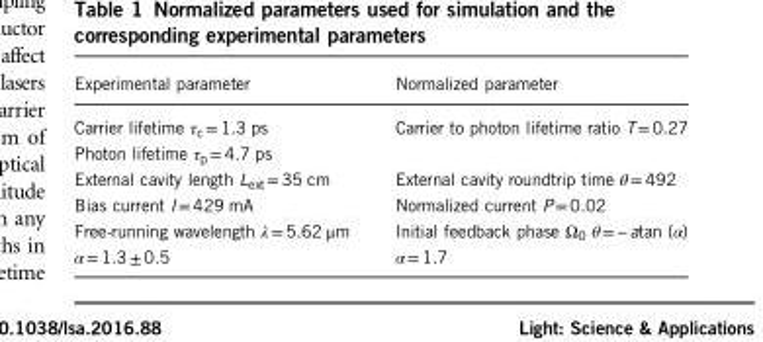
<table><thead><tr><td>Experimental parameter</td><td>Normalized parameter</td></tr></thead><tbody><tr><td>Carrier lifetime τ<sub>c</sub> = 1.3 ps</td><td>Carrier to photon lifetime ratio T = 0.27</td></tr><tr><td colspan="2">Photon lifetime τ<sub>p</sub> = 4.7 ps</td></tr><tr><td>External cavity length L<sub>ext</sub> = 35 cm</td><td>External cavity roundtrip time θ = 492</td></tr><tr><td>Bias current I = 429 mA</td><td>Normalized current P = 0.02</td></tr><tr><td>Free-running wavelength λ = 5.62 μm</td><td>Initial feedback phase Ω<sub>0</sub> θ = − atan (α)</td></tr><tr><td>α = 1.3 ± 0.5</td><td>α = 1.7</td></tr></tbody></table>